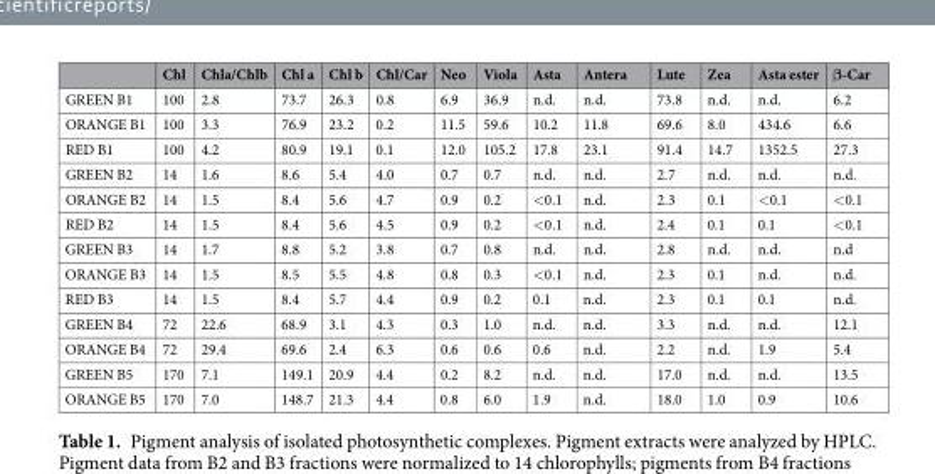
<table><thead><tr><td></td><td>Chl</td><td>Chla/Chlb</td><td>Chl a</td><td>Chl b</td><td>Chl/Car</td><td>Neo</td><td>Viola</td><td>Asta</td><td>Antera</td><td>Lute</td><td>Zea</td><td>Asta ester</td><td>β-Car</td></tr></thead><tbody><tr><td>GREEN B1</td><td>100</td><td>2.8</td><td>73.7</td><td>26.3</td><td>0.8</td><td>6.9</td><td>36.9</td><td>n.d.</td><td>n.d.</td><td>73.8</td><td>n.d.</td><td>n.d.</td><td>6.2</td></tr><tr><td>ORANGE B1</td><td>100</td><td>3.3</td><td>76.9</td><td>23.2</td><td>0.2</td><td>11.5</td><td>59.6</td><td>10.2</td><td>11.8</td><td>69.6</td><td>8.0</td><td>434.6</td><td>6.6</td></tr><tr><td>RED B1</td><td>100</td><td>4.2</td><td>80.9</td><td>19.1</td><td>0.1</td><td>12.0</td><td>105.2</td><td>17.8</td><td>23.1</td><td>91.4</td><td>14.7</td><td>1352.5</td><td>27.3</td></tr><tr><td>GREEN B2</td><td>14</td><td>1.6</td><td>8.6</td><td>5.4</td><td>4.0</td><td>0.7</td><td>0.7</td><td>n.d.</td><td>n.d.</td><td>2.7</td><td>n.d.</td><td>n.d.</td><td>n.d.</td></tr><tr><td>ORANGE B2</td><td>14</td><td>1.5</td><td>8.4</td><td>5.6</td><td>4.7</td><td>0.9</td><td>0.2</td><td>&lt;0.1</td><td>n.d.</td><td>2.3</td><td>0.1</td><td>&lt;0.1</td><td>&lt;0.1</td></tr><tr><td>RED B2</td><td>14</td><td>1.5</td><td>8.4</td><td>5.6</td><td>4.5</td><td>0.9</td><td>0.2</td><td>&lt;0.1</td><td>n.d.</td><td>2.4</td><td>0.1</td><td>0.1</td><td>&lt;0.1</td></tr><tr><td>GREEN B3</td><td>14</td><td>1.7</td><td>8.8</td><td>5.2</td><td>3.8</td><td>0.7</td><td>0.8</td><td>n.d.</td><td>n.d.</td><td>2.8</td><td>n.d.</td><td>n.d.</td><td>n.d</td></tr><tr><td>ORANGE B3</td><td>14</td><td>1.5</td><td>8.5</td><td>5.5</td><td>4.8</td><td>0.8</td><td>0.3</td><td>&lt;0.1</td><td>n.d.</td><td>2.3</td><td>0.1</td><td>n.d.</td><td>n.d.</td></tr><tr><td>RED B3</td><td>14</td><td>1.5</td><td>8.4</td><td>5.7</td><td>4.4</td><td>0.9</td><td>0.2</td><td>0.1</td><td>n.d.</td><td>2.3</td><td>0.1</td><td>0.1</td><td>n.d.</td></tr><tr><td>GREEN B4</td><td>72</td><td>22.6</td><td>68.9</td><td>3.1</td><td>4.3</td><td>0.3</td><td>1.0</td><td>n.d.</td><td>n.d.</td><td>3.3</td><td>n.d.</td><td>n.d.</td><td>12.1</td></tr><tr><td>ORANGE B4</td><td>72</td><td>29.4</td><td>69.6</td><td>2.4</td><td>6.3</td><td>0.6</td><td>0.6</td><td>0.6</td><td>n.d.</td><td>2.2</td><td>n.d.</td><td>1.9</td><td>5.4</td></tr><tr><td>GREEN B5</td><td>170</td><td>7.1</td><td>149.1</td><td>20.9</td><td>4.4</td><td>0.2</td><td>8.2</td><td>n.d.</td><td>n.d.</td><td>17.0</td><td>n.d.</td><td>n.d.</td><td>13.5</td></tr><tr><td>ORANGE B5</td><td>170</td><td>7.0</td><td>148.7</td><td>21.3</td><td>4.4</td><td>0.8</td><td>6.0</td><td>1.9</td><td>n.d.</td><td>18.0</td><td>1.0</td><td>0.9</td><td>10.6</td></tr></tbody></table>